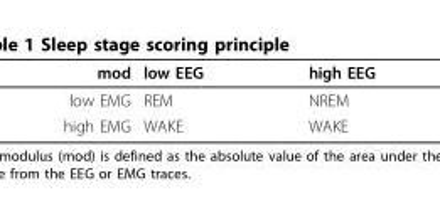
<table><thead><tr><td>mod</td><td>low EEG</td><td>high EEG</td></tr></thead><tbody><tr><td>low EMG</td><td>REM</td><td>NREM</td></tr><tr><td>high EMG</td><td>WAKE</td><td>WAKE</td></tr></tbody></table>